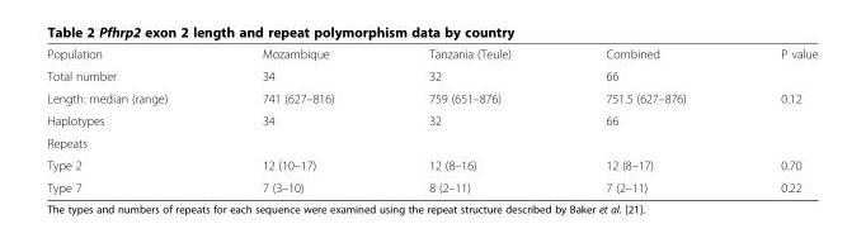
<table><tbody><tr><td>Population</td><td>Mozambique</td><td>Tanzania (Teule)</td><td>Combined</td><td>P value</td></tr><tr><td>Total number</td><td>34</td><td>32</td><td>66</td><td></td></tr><tr><td>Length: median (range)</td><td>741 (627–816)</td><td>759 (651–876)</td><td>751.5 (627–876)</td><td>0.12</td></tr><tr><td>Haplotypes</td><td>34</td><td>32</td><td>66</td><td></td></tr><tr><td colspan="5">Repeats</td></tr><tr><td>Type 2</td><td>12 (10–17)</td><td>12 (8–16)</td><td>12 (8–17)</td><td>0.70</td></tr><tr><td>Type 7</td><td>7 (3–10)</td><td>8 (2–11)</td><td>7 (2–11)</td><td>0.22</td></tr></tbody></table>